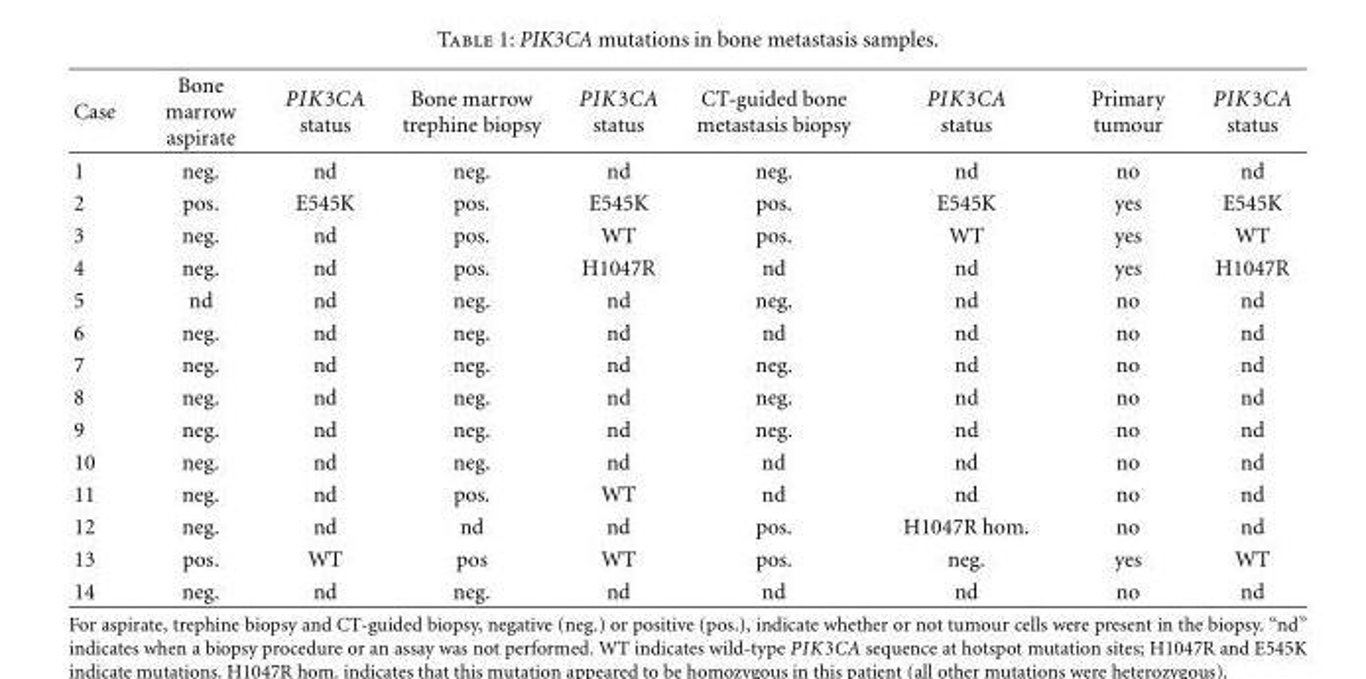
<table><thead><tr><td>Case</td><td>Bone marrow aspirate</td><td>PIK3CA status</td><td>Bone marrow trephine biopsy</td><td>PIK3CA status</td><td>CT-guided bone metastasis biopsy</td><td>PIK3CA status</td><td>Primary tumour</td><td>PIK3CA status</td></tr></thead><tbody><tr><td>1</td><td>neg.</td><td>nd</td><td>neg.</td><td>nd</td><td>neg.</td><td>nd</td><td>no</td><td>nd</td></tr><tr><td>2</td><td>pos.</td><td>E545K</td><td>pos.</td><td>E545K</td><td>pos.</td><td>E545K</td><td>yes</td><td>E545K</td></tr><tr><td>3</td><td>neg.</td><td>nd</td><td>pos.</td><td>WT</td><td>pos.</td><td>WT</td><td>yes</td><td>WT</td></tr><tr><td>4</td><td>neg.</td><td>nd</td><td>pos.</td><td>H1047R</td><td>nd</td><td>nd</td><td>yes</td><td>H1047R</td></tr><tr><td>5</td><td>nd</td><td>nd</td><td>neg.</td><td>nd</td><td>neg.</td><td>nd</td><td>no</td><td>nd</td></tr><tr><td>6</td><td>neg.</td><td>nd</td><td>neg.</td><td>nd</td><td>nd</td><td>nd</td><td>no</td><td>nd</td></tr><tr><td>7</td><td>neg.</td><td>nd</td><td>neg.</td><td>nd</td><td>neg.</td><td>nd</td><td>no</td><td>nd</td></tr><tr><td>8</td><td>neg.</td><td>nd</td><td>neg.</td><td>nd</td><td>neg.</td><td>nd</td><td>no</td><td>nd</td></tr><tr><td>9</td><td>neg.</td><td>nd</td><td>neg.</td><td>nd</td><td>neg.</td><td>nd</td><td>no</td><td>nd</td></tr><tr><td>10</td><td>neg.</td><td>nd</td><td>neg.</td><td>nd</td><td>nd</td><td>nd</td><td>no</td><td>nd</td></tr><tr><td>11</td><td>neg.</td><td>nd</td><td>pos.</td><td>WT</td><td>nd</td><td>nd</td><td>no</td><td>nd</td></tr><tr><td>12</td><td>neg.</td><td>nd</td><td>nd</td><td>nd</td><td>pos.</td><td>H1047R hom.</td><td>no</td><td>nd</td></tr><tr><td>13</td><td>pos.</td><td>WT</td><td>pos</td><td>WT</td><td>pos.</td><td>neg.</td><td>yes</td><td>WT</td></tr><tr><td>14</td><td>neg.</td><td>nd</td><td>neg.</td><td>nd</td><td>nd</td><td>nd</td><td>no</td><td>nd</td></tr></tbody></table>